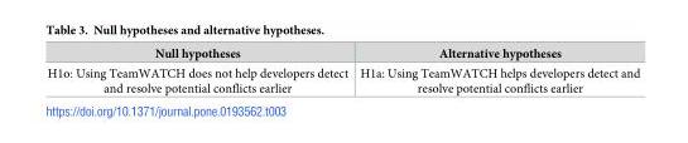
<table><thead><tr><td>Null hypotheses</td><td>Alternative hypotheses</td></tr></thead><tbody><tr><td>H1o: Using TeamWATCH does not help developers detect and resolve potential conflicts earlier</td><td>H1a: Using TeamWATCH helps developers detect and resolve potential conflicts earlier</td></tr></tbody></table>